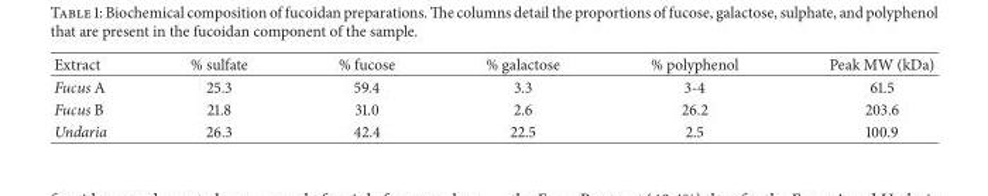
<table><thead><tr><td>Extract</td><td>% sulfate</td><td>% fucose</td><td>% galactose</td><td>% polyphenol</td><td>Peak MW (kDa)</td></tr></thead><tbody><tr><td>Fucus A</td><td>25.3</td><td>59.4</td><td>3.3</td><td>3-4</td><td>61.5</td></tr><tr><td>Fucus B</td><td>21.8</td><td>31.0</td><td>2.6</td><td>26.2</td><td>203.6</td></tr><tr><td>Undaria</td><td>26.3</td><td>42.4</td><td>22.5</td><td>2.5</td><td>100.9</td></tr></tbody></table>